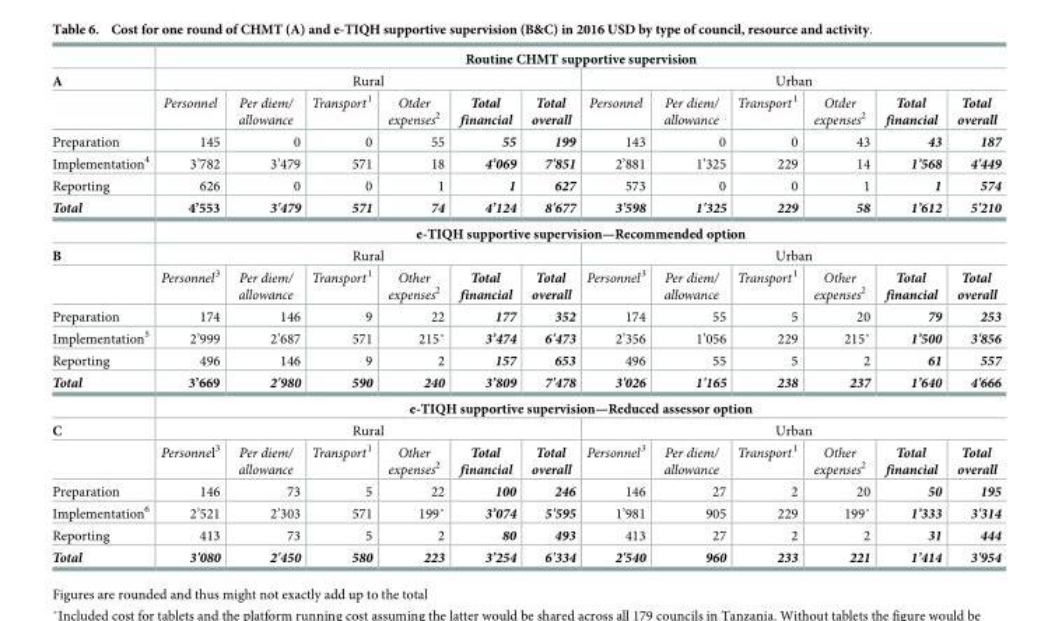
<table><thead><tr><td rowspan="3">A</td><td colspan="12">Routine CHMT supportive supervision</td></tr><tr><td colspan="6">Rural</td><td colspan="6">Urban</td></tr><tr><td>Personnel</td><td>Per diem/ allowance</td><td>Transport<sup>1</sup></td><td>Otder expenses<sup>2</sup></td><td>Total financial</td><td>Total overall</td><td>Personnel</td><td>Per diem/ allowance</td><td>Transport<sup>1</sup></td><td>Otder expenses<sup>2</sup></td><td>Total financial</td><td>Total overall</td></tr></thead><tbody><tr><td>Preparation</td><td>145</td><td>0</td><td>0</td><td>55</td><td>55</td><td>199</td><td>143</td><td>0</td><td>0</td><td>43</td><td>43</td><td>187</td></tr><tr><td>Implementation<sup>4</sup></td><td>3’782</td><td>3’479</td><td>571</td><td>18</td><td>4’069</td><td>7&#x27;851</td><td>2’881</td><td>1’325</td><td>229</td><td>14</td><td>1’568</td><td>4&#x27;449</td></tr><tr><td>Reporting</td><td>626</td><td>0</td><td>0</td><td>1</td><td>1</td><td>627</td><td>573</td><td>0</td><td>0</td><td>1</td><td>1</td><td>574</td></tr><tr><td rowspan="2">Total</td><td>4’553</td><td>3&#x27;479</td><td>571</td><td>74</td><td>4’124</td><td>8&#x27;677</td><td>3&#x27;598</td><td>1&#x27;325</td><td>229</td><td>58</td><td>1’612</td><td>5&#x27;210</td></tr><tr><td colspan="12">e-TIQH supportive supervision—Recommended option</td></tr><tr><td rowspan="2">B</td><td colspan="6">Rural</td><td colspan="6">Urban</td></tr><tr><td>Personnel<sup>3</sup></td><td>Per diem/ allowance</td><td>Transport<sup>1</sup></td><td>Other expenses<sup>2</sup></td><td>Total financial</td><td>Total overall</td><td>Personnel<sup>3</sup></td><td>Per diem/ allowance</td><td>Transport<sup>1</sup></td><td>Other expenses<sup>2</sup></td><td>Total financial</td><td>Total overall</td></tr><tr><td>Preparation</td><td>174</td><td>146</td><td>9</td><td>22</td><td>177</td><td>352</td><td>174</td><td>55</td><td>5</td><td>20</td><td>79</td><td>253</td></tr><tr><td>Implementation<sup>5</sup></td><td>2’999</td><td>2’687</td><td>571</td><td>215˚</td><td>3’474</td><td>6&#x27;473</td><td>2’356</td><td>1’056</td><td>229</td><td>215˚</td><td>1’500</td><td>3&#x27;856</td></tr><tr><td>Reporting</td><td>496</td><td>146</td><td>9</td><td>2</td><td>157</td><td>653</td><td>496</td><td>55</td><td>5</td><td>2</td><td>61</td><td>557</td></tr><tr><td rowspan="2">Total</td><td>3’669</td><td>2&#x27;980</td><td>590</td><td>240</td><td>3’809</td><td>7&#x27;478</td><td>3&#x27;026</td><td>1&#x27;165</td><td>238</td><td>237</td><td>1’640</td><td>4&#x27;666</td></tr><tr><td colspan="12">e-TIQH supportive supervision—Reduced assessor option</td></tr><tr><td rowspan="2">C</td><td colspan="6">Rural</td><td colspan="6">Urban</td></tr><tr><td>Personnel<sup>3</sup></td><td>Per diem/ allowance</td><td>Transport<sup>1</sup></td><td>Other expenses<sup>2</sup></td><td>Total financial</td><td>Total overall</td><td>Personnel<sup>3</sup></td><td>Per diem/ allowance</td><td>Transport<sup>1</sup></td><td>Other expenses<sup>2</sup></td><td>Total financial</td><td>Total overall</td></tr><tr><td>Preparation</td><td>146</td><td>73</td><td>5</td><td>22</td><td>100</td><td>246</td><td>146</td><td>27</td><td>2</td><td>20</td><td>50</td><td>195</td></tr><tr><td>Implementation<sup>6</sup></td><td>2’521</td><td>2’303</td><td>571</td><td>199˚</td><td>3’074</td><td>5&#x27;595</td><td>1’981</td><td>905</td><td>229</td><td>199˚</td><td>1’333</td><td>3&#x27;314</td></tr><tr><td>Reporting</td><td>413</td><td>73</td><td>5</td><td>2</td><td>80</td><td>493</td><td>413</td><td>27</td><td>2</td><td>2</td><td>31</td><td>444</td></tr><tr><td>Total</td><td>3&#x27;080</td><td>2&#x27;450</td><td>580</td><td>223</td><td>3’254</td><td>6&#x27;334</td><td>2&#x27;540</td><td>960</td><td>233</td><td>221</td><td>1’414</td><td>3&#x27;954</td></tr></tbody></table>